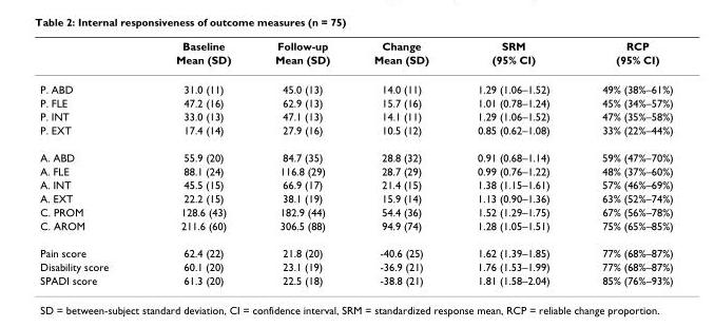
<table><thead><tr><td rowspan="2"></td><td rowspan="2">Baseline Mean (SD)</td><td rowspan="2">Follow-up Mean (SD)</td><td rowspan="2">Change Mean (SD)</td><td rowspan="2">SRM (95% CI)</td><td rowspan="2">RCP (95% CI)</td></tr><tr></tr></thead><tbody><tr><td>P. ABD</td><td>31.0 (11)</td><td>45.0 (13)</td><td>14.0 (11)</td><td>1.29 (1.06–1.52)</td><td>49% (38%–61%)</td></tr><tr><td>P. FLE</td><td>47.2 (16)</td><td>62.9 (13)</td><td>15.7 (16)</td><td>1.01 (0.78–1.24)</td><td>45% (34%–57%)</td></tr><tr><td>P. INT</td><td>33.0 (13)</td><td>47.1 (13)</td><td>14.1 (11)</td><td>1.29 (1.06–1.52)</td><td>47% (35%–58%)</td></tr><tr><td>P. EXT</td><td>17.4 (14)</td><td>27.9 (16)</td><td>10.5 (12)</td><td>0.85 (0.62–1.08)</td><td>33% (22%–44%)</td></tr><tr><td>A. ABD</td><td>55.9 (20)</td><td>84.7 (35)</td><td>28.8 (32)</td><td>0.91 (0.68–1.14)</td><td>59% (47%–70%)</td></tr><tr><td>A. FLE</td><td>88.1 (24)</td><td>116.8 (29)</td><td>28.7 (29)</td><td>0.99 (0.76–1.22)</td><td>48% (37%–60%)</td></tr><tr><td>A. INT</td><td>45.5 (15)</td><td>66.9 (17)</td><td>21.4 (15)</td><td>1.38 (1.15–1.61)</td><td>57% (46%–69%)</td></tr><tr><td>A. EXT</td><td>22.2 (15)</td><td>38.1 (19)</td><td>15.9 (14)</td><td>1.13 (0.90–1.36)</td><td>63% (52%–74%)</td></tr><tr><td>C. PROM</td><td>128.6 (43)</td><td>182.9 (44)</td><td>54.4 (36)</td><td>1.52 (1.29–1.75)</td><td>67% (56%–78%)</td></tr><tr><td>C. AROM</td><td>211.6 (60)</td><td>306.5 (88)</td><td>94.9 (74)</td><td>1.28 (1.05–1.51)</td><td>75% (65%–85%)</td></tr><tr><td>Pain score</td><td>62.4 (22)</td><td>21.8 (20)</td><td>-40.6 (25)</td><td>1.62 (1.39–1.85)</td><td>77% (68%–87%)</td></tr><tr><td>Disability score</td><td>60.1 (20)</td><td>23.1 (19)</td><td>-36.9 (21)</td><td>1.76 (1.53–1.99)</td><td>77% (68%–87%)</td></tr><tr><td>SPADI score</td><td>61.3 (20)</td><td>22.5 (18)</td><td>-38.8 (21)</td><td>1.81 (1.58–2.04)</td><td>85% (76%–93%)</td></tr></tbody></table>